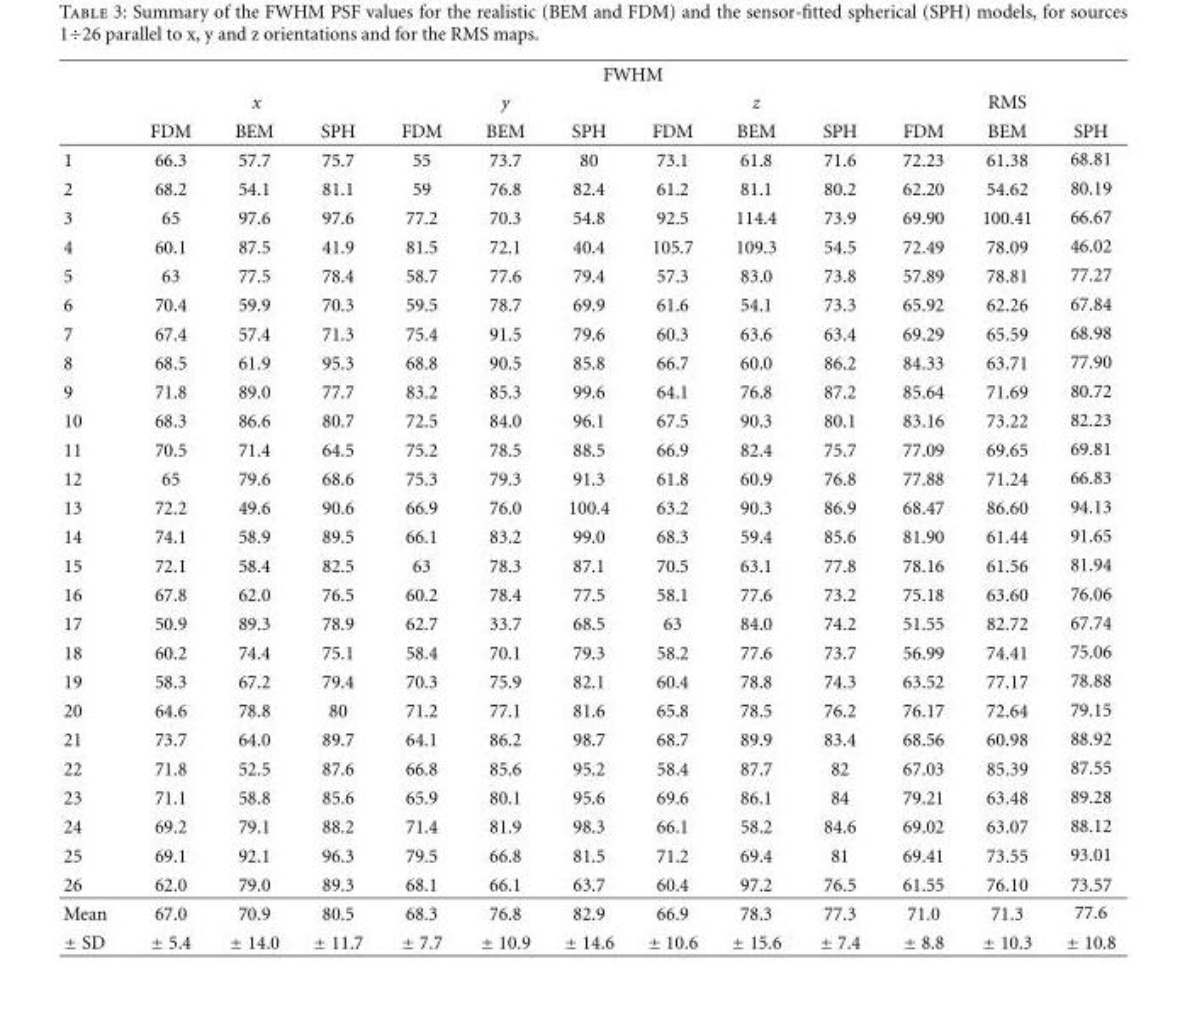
<table><thead><tr><td rowspan="3"></td><td colspan="12">FWHM</td></tr><tr><td colspan="3">x</td><td colspan="3">y</td><td colspan="3">z</td><td colspan="3">RMS</td></tr><tr><td>FDM</td><td>BEM</td><td>SPH</td><td>FDM</td><td>BEM</td><td>SPH</td><td>FDM</td><td>BEM</td><td>SPH</td><td>FDM</td><td>BEM</td><td>SPH</td></tr></thead><tbody><tr><td>1</td><td>66.3</td><td>57.7</td><td>75.7</td><td>55</td><td>73.7</td><td>80</td><td>73.1</td><td>61.8</td><td>71.6</td><td>72.23</td><td>61.38</td><td>68.81</td></tr><tr><td>2</td><td>68.2</td><td>54.1</td><td>81.1</td><td>59</td><td>76.8</td><td>82.4</td><td>61.2</td><td>81.1</td><td>80.2</td><td>62.20</td><td>54.62</td><td>80.19</td></tr><tr><td>3</td><td>65</td><td>97.6</td><td>97.6</td><td>77.2</td><td>70.3</td><td>54.8</td><td>92.5</td><td>114.4</td><td>73.9</td><td>69.90</td><td>100.41</td><td>66.67</td></tr><tr><td>4</td><td>60.1</td><td>87.5</td><td>41.9</td><td>81.5</td><td>72.1</td><td>40.4</td><td>105.7</td><td>109.3</td><td>54.5</td><td>72.49</td><td>78.09</td><td>46.02</td></tr><tr><td>5</td><td>63</td><td>77.5</td><td>78.4</td><td>58.7</td><td>77.6</td><td>79.4</td><td>57.3</td><td>83.0</td><td>73.8</td><td>57.89</td><td>78.81</td><td>77.27</td></tr><tr><td>6</td><td>70.4</td><td>59.9</td><td>70.3</td><td>59.5</td><td>78.7</td><td>69.9</td><td>61.6</td><td>54.1</td><td>73.3</td><td>65.92</td><td>62.26</td><td>67.84</td></tr><tr><td>7</td><td>67.4</td><td>57.4</td><td>71.3</td><td>75.4</td><td>91.5</td><td>79.6</td><td>60.3</td><td>63.6</td><td>63.4</td><td>69.29</td><td>65.59</td><td>68.98</td></tr><tr><td>8</td><td>68.5</td><td>61.9</td><td>95.3</td><td>68.8</td><td>90.5</td><td>85.8</td><td>66.7</td><td>60.0</td><td>86.2</td><td>84.33</td><td>63.71</td><td>77.90</td></tr><tr><td>9</td><td>71.8</td><td>89.0</td><td>77.7</td><td>83.2</td><td>85.3</td><td>99.6</td><td>64.1</td><td>76.8</td><td>87.2</td><td>85.64</td><td>71.69</td><td>80.72</td></tr><tr><td>10</td><td>68.3</td><td>86.6</td><td>80.7</td><td>72.5</td><td>84.0</td><td>96.1</td><td>67.5</td><td>90.3</td><td>80.1</td><td>83.16</td><td>73.22</td><td>82.23</td></tr><tr><td>11</td><td>70.5</td><td>71.4</td><td>64.5</td><td>75.2</td><td>78.5</td><td>88.5</td><td>66.9</td><td>82.4</td><td>75.7</td><td>77.09</td><td>69.65</td><td>69.81</td></tr><tr><td>12</td><td>65</td><td>79.6</td><td>68.6</td><td>75.3</td><td>79.3</td><td>91.3</td><td>61.8</td><td>60.9</td><td>76.8</td><td>77.88</td><td>71.24</td><td>66.83</td></tr><tr><td>13</td><td>72.2</td><td>49.6</td><td>90.6</td><td>66.9</td><td>76.0</td><td>100.4</td><td>63.2</td><td>90.3</td><td>86.9</td><td>68.47</td><td>86.60</td><td>94.13</td></tr><tr><td>14</td><td>74.1</td><td>58.9</td><td>89.5</td><td>66.1</td><td>83.2</td><td>99.0</td><td>68.3</td><td>59.4</td><td>85.6</td><td>81.90</td><td>61.44</td><td>91.65</td></tr><tr><td>15</td><td>72.1</td><td>58.4</td><td>82.5</td><td>63</td><td>78.3</td><td>87.1</td><td>70.5</td><td>63.1</td><td>77.8</td><td>78.16</td><td>61.56</td><td>81.94</td></tr><tr><td>16</td><td>67.8</td><td>62.0</td><td>76.5</td><td>60.2</td><td>78.4</td><td>77.5</td><td>58.1</td><td>77.6</td><td>73.2</td><td>75.18</td><td>63.60</td><td>76.06</td></tr><tr><td>17</td><td>50.9</td><td>89.3</td><td>78.9</td><td>62.7</td><td>33.7</td><td>68.5</td><td>63</td><td>84.0</td><td>74.2</td><td>51.55</td><td>82.72</td><td>67.74</td></tr><tr><td>18</td><td>60.2</td><td>74.4</td><td>75.1</td><td>58.4</td><td>70.1</td><td>79.3</td><td>58.2</td><td>77.6</td><td>73.7</td><td>56.99</td><td>74.41</td><td>75.06</td></tr><tr><td>19</td><td>58.3</td><td>67.2</td><td>79.4</td><td>70.3</td><td>75.9</td><td>82.1</td><td>60.4</td><td>78.8</td><td>74.3</td><td>63.52</td><td>77.17</td><td>78.88</td></tr><tr><td>20</td><td>64.6</td><td>78.8</td><td>80</td><td>71.2</td><td>77.1</td><td>81.6</td><td>65.8</td><td>78.5</td><td>76.2</td><td>76.17</td><td>72.64</td><td>79.15</td></tr><tr><td>21</td><td>73.7</td><td>64.0</td><td>89.7</td><td>64.1</td><td>86.2</td><td>98.7</td><td>68.7</td><td>89.9</td><td>83.4</td><td>68.56</td><td>60.98</td><td>88.92</td></tr><tr><td>22</td><td>71.8</td><td>52.5</td><td>87.6</td><td>66.8</td><td>85.6</td><td>95.2</td><td>58.4</td><td>87.7</td><td>82</td><td>67.03</td><td>85.39</td><td>87.55</td></tr><tr><td>23</td><td>71.1</td><td>58.8</td><td>85.6</td><td>65.9</td><td>80.1</td><td>95.6</td><td>69.6</td><td>86.1</td><td>84</td><td>79.21</td><td>63.48</td><td>89.28</td></tr><tr><td>24</td><td>69.2</td><td>79.1</td><td>88.2</td><td>71.4</td><td>81.9</td><td>98.3</td><td>66.1</td><td>58.2</td><td>84.6</td><td>69.02</td><td>63.07</td><td>88.12</td></tr><tr><td>25</td><td>69.1</td><td>92.1</td><td>96.3</td><td>79.5</td><td>66.8</td><td>81.5</td><td>71.2</td><td>69.4</td><td>81</td><td>69.41</td><td>73.55</td><td>93.01</td></tr><tr><td>26</td><td>62.0</td><td>79.0</td><td>89.3</td><td>68.1</td><td>66.1</td><td>63.7</td><td>60.4</td><td>97.2</td><td>76.5</td><td>61.55</td><td>76.10</td><td>73.57</td></tr><tr><td>Mean</td><td>67.0</td><td>70.9</td><td>80.5</td><td>68.3</td><td>76.8</td><td>82.9</td><td>66.9</td><td>78.3</td><td>77.3</td><td>71.0</td><td>71.3</td><td>77.6</td></tr><tr><td>± SD</td><td>± 5.4</td><td>± 14.0</td><td>± 11.7</td><td>± 7.7</td><td>± 10.9</td><td>± 14.6</td><td>± 10.6</td><td>± 15.6</td><td>± 7.4</td><td>± 8.8</td><td>± 10.3</td><td>± 10.8</td></tr></tbody></table>